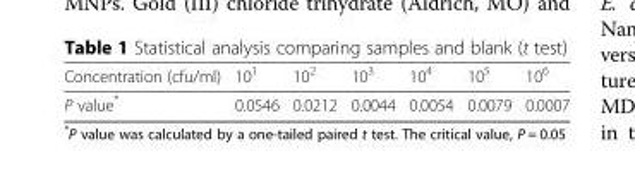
<table><thead><tr><td>Concentration (cfu/ml)</td><td>10<sup>1</sup></td><td>10<sup>2</sup></td><td>10<sup>3</sup></td><td>10<sup>4</sup></td><td>10<sup>5</sup></td><td>10<sup>6</sup></td></tr></thead><tbody><tr><td>P value*</td><td>0.0546</td><td>0.0212</td><td>0.0044</td><td>0.0054</td><td>0.0079</td><td>0.0007</td></tr></tbody></table>